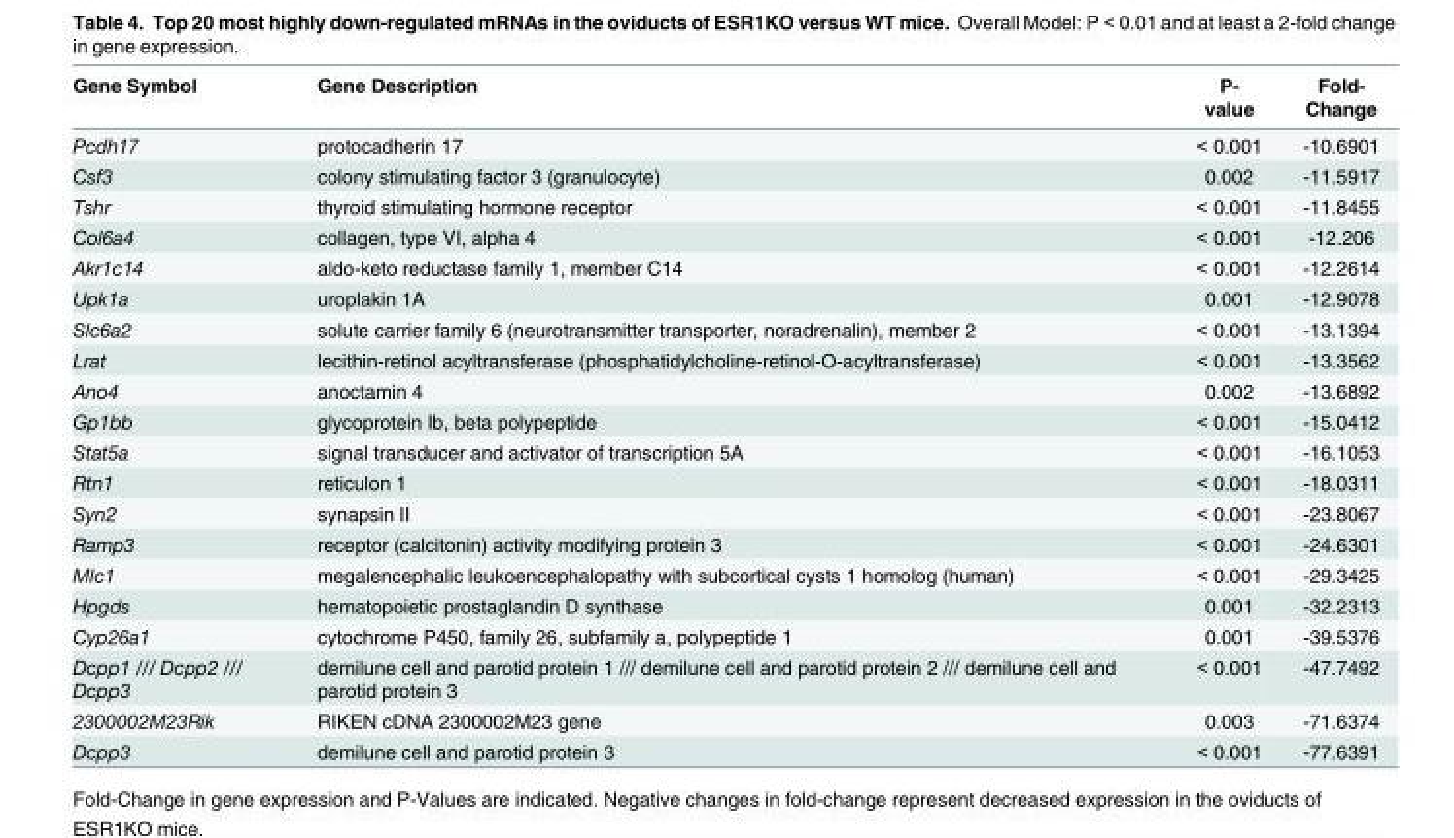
<table><thead><tr><td>Gene Symbol</td><td>Gene Description</td><td>P- value</td><td>Fold- Change</td></tr></thead><tbody><tr><td>Pcdh17</td><td>protocadherin 17</td><td>&lt; 0.001</td><td>-10.6901</td></tr><tr><td>Csf3</td><td>colony stimulating factor 3 (granulocyte)</td><td>0.002</td><td>-11.5917</td></tr><tr><td>Tshr</td><td>thyroid stimulating hormone receptor</td><td>&lt; 0.001</td><td>-11.8455</td></tr><tr><td>Col6a4</td><td>collagen, type VI, alpha 4</td><td>&lt; 0.001</td><td>-12.206</td></tr><tr><td>Akr1c14</td><td>aldo-keto reductase family 1, member C14</td><td>&lt; 0.001</td><td>-12.2614</td></tr><tr><td>Upk1a</td><td>uroplakin 1A</td><td>0.001</td><td>-12.9078</td></tr><tr><td>Slc6a2</td><td>solute carrier family 6 (neurotransmitter transporter, noradrenalin), member 2</td><td>&lt; 0.001</td><td>-13.1394</td></tr><tr><td>Lrat</td><td>lecithin-retinol acyltransferase (phosphatidylcholine-retinol-O-acyltransferase)</td><td>&lt; 0.001</td><td>-13.3562</td></tr><tr><td>Ano4</td><td>anoctamin 4</td><td>0.002</td><td>-13.6892</td></tr><tr><td>Gp1bb</td><td>glycoprotein Ib, beta polypeptide</td><td>&lt; 0.001</td><td>-15.0412</td></tr><tr><td>Stat5a</td><td>signal transducer and activator of transcription 5A</td><td>&lt; 0.001</td><td>-16.1053</td></tr><tr><td>Rtn1</td><td>reticulon 1</td><td>&lt; 0.001</td><td>-18.0311</td></tr><tr><td>Syn2</td><td>synapsin II</td><td>&lt; 0.001</td><td>-23.8067</td></tr><tr><td>Ramp3</td><td>receptor (calcitonin) activity modifying protein 3</td><td>&lt; 0.001</td><td>-24.6301</td></tr><tr><td>Mlc1</td><td>megalencephalic leukoencephalopathy with subcortical cysts 1 homolog (human)</td><td>&lt; 0.001</td><td>-29.3425</td></tr><tr><td>Hpgds</td><td>hematopoietic prostaglandin D synthase</td><td>0.001</td><td>-32.2313</td></tr><tr><td>Cyp26a1</td><td>cytochrome P450, family 26, subfamily a, polypeptide 1</td><td>0.001</td><td>-39.5376</td></tr><tr><td>Dcpp1 /// Dcpp2 /// Dcpp3</td><td>demilune cell and parotid protein 1 /// demilune cell and parotid protein 2 /// demilune cell and parotid protein 3</td><td>&lt; 0.001</td><td>-47.7492</td></tr><tr><td>2300002M23Rik</td><td>RIKEN cDNA 2300002M23 gene</td><td>0.003</td><td>-71.6374</td></tr><tr><td>Dcpp3</td><td>demilune cell and parotid protein 3</td><td>&lt; 0.001</td><td>-77.6391</td></tr></tbody></table>